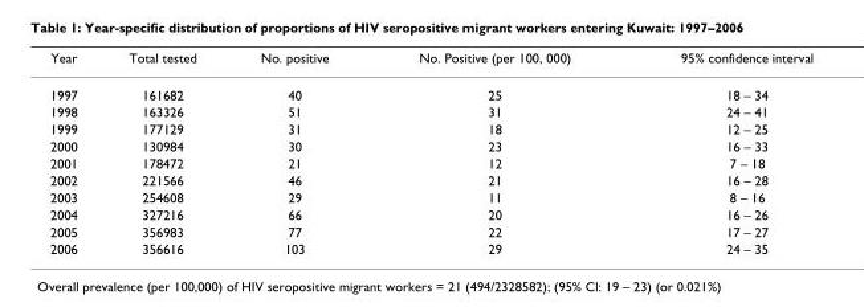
<table><thead><tr><td>Year</td><td>Total tested</td><td>No. positive</td><td>No. Positive (per 100, 000)</td><td>95% confidence interval</td></tr></thead><tbody><tr><td>1997</td><td>161682</td><td>40</td><td>25</td><td>18 – 34</td></tr><tr><td>1998</td><td>163326</td><td>51</td><td>31</td><td>24 – 41</td></tr><tr><td>1999</td><td>177129</td><td>31</td><td>18</td><td>12 – 25</td></tr><tr><td>2000</td><td>130984</td><td>30</td><td>23</td><td>16 – 33</td></tr><tr><td>2001</td><td>178472</td><td>21</td><td>12</td><td>7 – 18</td></tr><tr><td>2002</td><td>221566</td><td>46</td><td>21</td><td>16 – 28</td></tr><tr><td>2003</td><td>254608</td><td>29</td><td>11</td><td>8 – 16</td></tr><tr><td>2004</td><td>327216</td><td>66</td><td>20</td><td>16 – 26</td></tr><tr><td>2005</td><td>356983</td><td>77</td><td>22</td><td>17 – 27</td></tr><tr><td>2006</td><td>356616</td><td>103</td><td>29</td><td>24 – 35</td></tr></tbody></table>